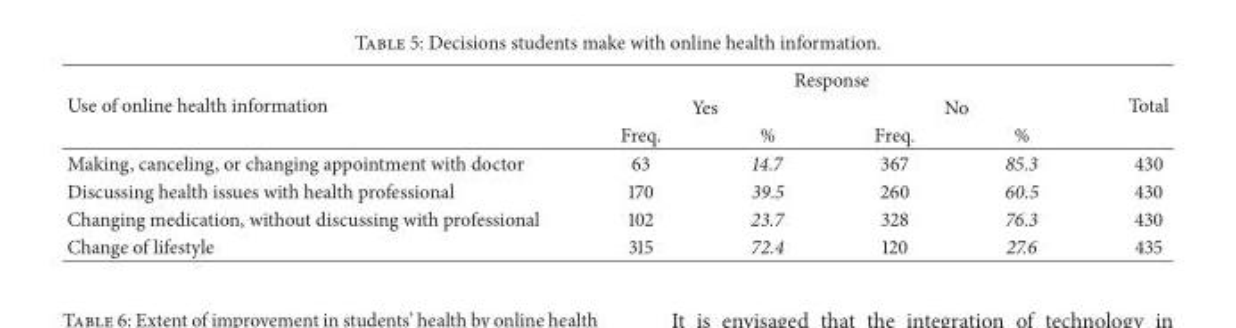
<table><thead><tr><td rowspan="3">Use of online health information</td><td colspan="4">Response</td><td rowspan="3">Total</td></tr><tr><td colspan="2">Yes</td><td colspan="2">No</td></tr><tr><td>Freq.</td><td>%</td><td>Freq.</td><td>%</td></tr></thead><tbody><tr><td>Making, canceling, or changing appointment with doctor</td><td>63</td><td>14.7</td><td>367</td><td>85.3</td><td>430</td></tr><tr><td>Discussing health issues with health professional</td><td>170</td><td>39.5</td><td>260</td><td>60.5</td><td>430</td></tr><tr><td>Changing medication, without discussing with professional</td><td>102</td><td>23.7</td><td>328</td><td>76.3</td><td>430</td></tr><tr><td>Change of lifestyle</td><td>315</td><td>72.4</td><td>120</td><td>27.6</td><td>435</td></tr></tbody></table>